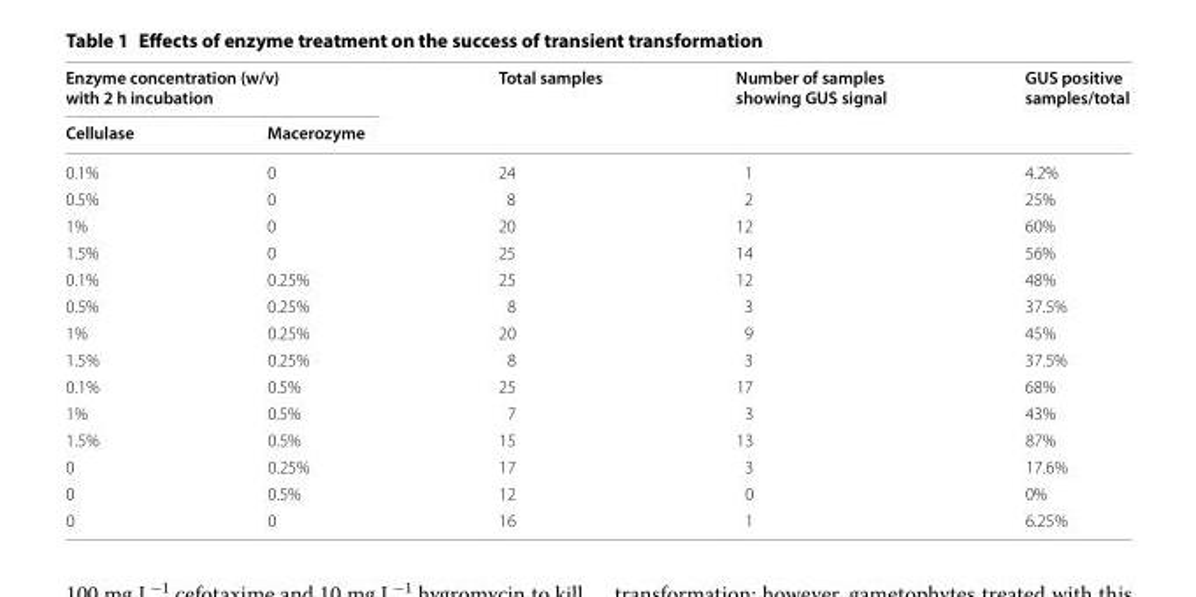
<table><thead><tr><td colspan="2">Enzyme concentration (w/v) with 2 h incubation</td><td rowspan="2">Total samples</td><td rowspan="2">Number of samples showing GUS signal</td><td rowspan="2">GUS positive samples/total</td></tr><tr><td>Cellulase</td><td>Macerozyme</td></tr></thead><tbody><tr><td>0.1%</td><td>0</td><td>24</td><td>1</td><td>4.2%</td></tr><tr><td>0.5%</td><td>0</td><td>8</td><td>2</td><td>25%</td></tr><tr><td>1%</td><td>0</td><td>20</td><td>12</td><td>60%</td></tr><tr><td>1.5%</td><td>0</td><td>25</td><td>14</td><td>56%</td></tr><tr><td>0.1%</td><td>0.25%</td><td>25</td><td>12</td><td>48%</td></tr><tr><td>0.5%</td><td>0.25%</td><td>8</td><td>3</td><td>37.5%</td></tr><tr><td>1%</td><td>0.25%</td><td>20</td><td>9</td><td>45%</td></tr><tr><td>1.5%</td><td>0.25%</td><td>8</td><td>3</td><td>37.5%</td></tr><tr><td>0.1%</td><td>0.5%</td><td>25</td><td>17</td><td>68%</td></tr><tr><td>1%</td><td>0.5%</td><td>7</td><td>3</td><td>43%</td></tr><tr><td>1.5%</td><td>0.5%</td><td>15</td><td>13</td><td>87%</td></tr><tr><td>0</td><td>0.25%</td><td>17</td><td>3</td><td>17.6%</td></tr><tr><td>0</td><td>0.5%</td><td>12</td><td>0</td><td>0%</td></tr><tr><td>0</td><td>0</td><td>16</td><td>1</td><td>6.25%</td></tr></tbody></table>